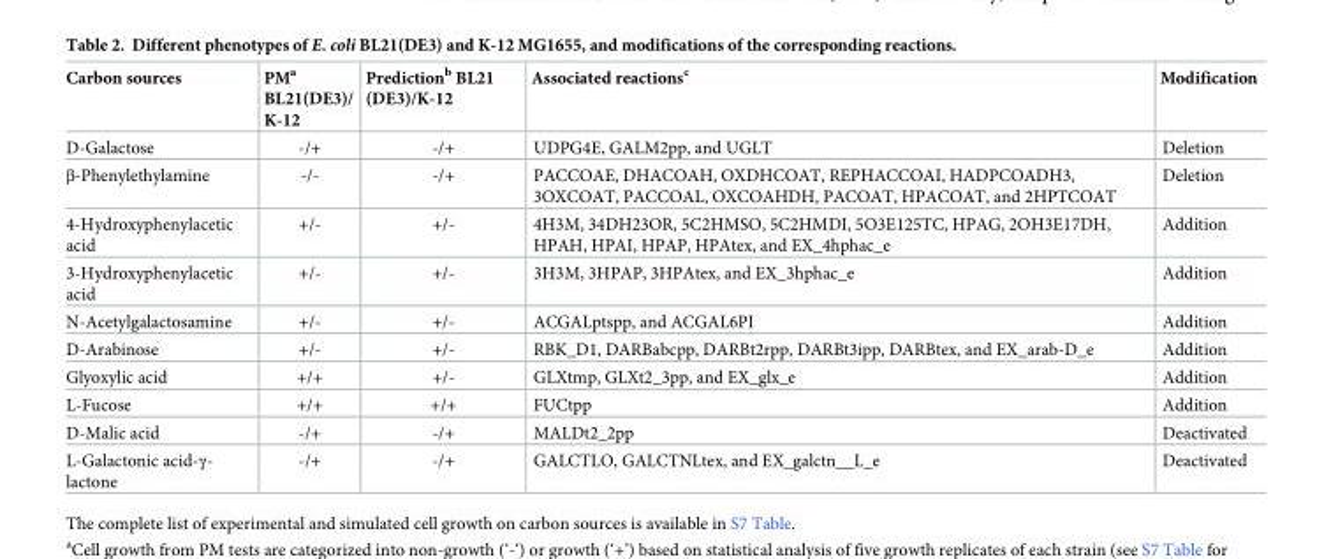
<table><thead><tr><td>Carbon sources</td><td>PM<sup>a</sup> BL21(DE3)/ K-12</td><td>Prediction<sup>b</sup> BL21 (DE3)/K-12</td><td>Associated reactions<sup>c</sup></td><td>Modification</td></tr></thead><tbody><tr><td>D-Galactose</td><td>-/+</td><td>-/+</td><td>UDPG4E, GALM2pp, and UGLT</td><td>Deletion</td></tr><tr><td>β-Phenylethylamine</td><td>-/-</td><td>-/+</td><td>PACCOAE, DHACOAH, OXDHCOAT, REPHACCOAI, HADPCOADH3, 3OXCOAT, PACCOAL, OXCOAHDH, PACOAT, HPACOAT, and 2HPTCOAT</td><td>Deletion</td></tr><tr><td>4-Hydroxyphenylacetic acid</td><td>+/-</td><td>+/-</td><td>4H3M, 34DH23OR, 5C2HMSO, 5C2HMDI, 5O3E125TC, HPAG, 2OH3E17DH, HPAH, HPAI, HPAP, HPAtex, and EX_4hphac_e</td><td>Addition</td></tr><tr><td>3-Hydroxyphenylacetic acid</td><td>+/-</td><td>+/-</td><td>3H3M, 3HPAP, 3HPAtex, and EX_3hphac_e</td><td>Addition</td></tr><tr><td>N-Acetylgalactosamine</td><td>+/-</td><td>+/-</td><td>ACGALptspp, and ACGAL6PI</td><td>Addition</td></tr><tr><td>D-Arabinose</td><td>+/-</td><td>+/-</td><td>RBK_D1, DARBabcpp, DARBt2rpp, DARBt3ipp, DARBtex, and EX_arab-D_e</td><td>Addition</td></tr><tr><td>Glyoxylic acid</td><td>+/+</td><td>+/-</td><td>GLXtmp, GLXt2_3pp, and EX_glx_e</td><td>Addition</td></tr><tr><td>L-Fucose</td><td>+/+</td><td>+/+</td><td>FUCtpp</td><td>Addition</td></tr><tr><td>D-Malic acid</td><td>-/+</td><td>-/+</td><td>MALDt2_2pp</td><td>Deactivated</td></tr><tr><td>L-Galactonic acid-γ- lactone</td><td>-/+</td><td>-/+</td><td>GALCTLO, GALCTNLtex, and EX_galctn__L_e</td><td>Deactivated</td></tr></tbody></table>